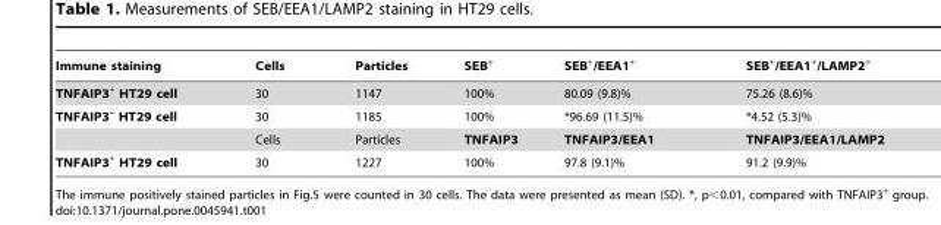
<table><thead><tr><td>Immune staining</td><td>Cells</td><td>Particles</td><td>SEB<sup>+</sup></td><td>SEB<sup>+</sup>/EEA1<sup>+</sup></td><td>SEB<sup>+</sup>/EEA1<sup>+</sup>/LAMP2<sup>+</sup></td></tr></thead><tbody><tr><td>TNFAIP3<sup>+</sup> HT29 cell</td><td>30</td><td>1147</td><td>100%</td><td>80.09 (9.8)%</td><td>75.26 (8.6)%</td></tr><tr><td rowspan="2">TNFAIP3<sup>–</sup> HT29 cell</td><td>30</td><td>1185</td><td>100%</td><td>*96.69 (11.5)%</td><td>*4.52 (5.3)%</td></tr><tr><td>Cells</td><td>Particles</td><td>TNFAIP3</td><td>TNFAIP3/EEA1</td><td>TNFAIP3/EEA1/LAMP2</td></tr><tr><td>TNFAIP3<sup>+</sup> HT29 cell</td><td>30</td><td>1227</td><td>100%</td><td>97.8 (9.1)%</td><td>91.2 (9.9)%</td></tr></tbody></table>